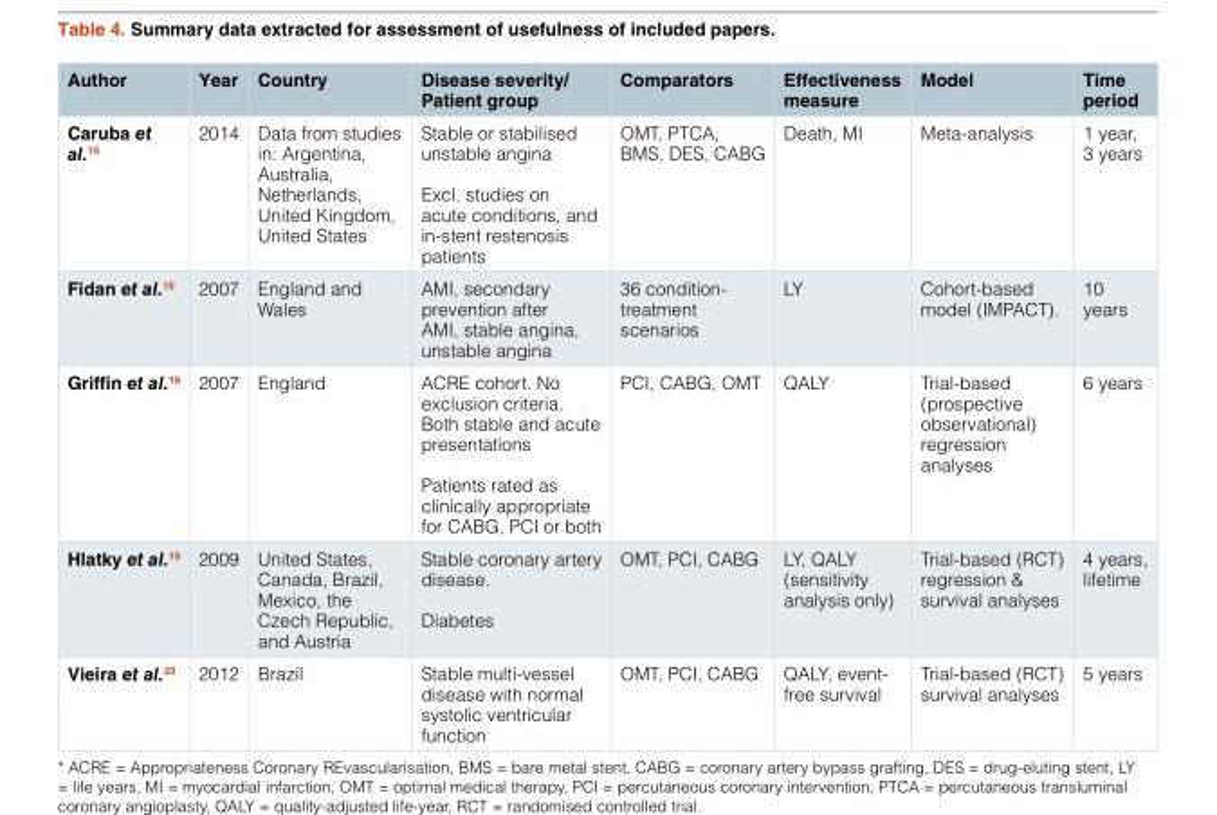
<table><thead><tr><td>Author</td><td>Year</td><td>Country</td><td>Disease severity/ Patient group</td><td>Comparators</td><td>Effectiveness measure</td><td>Model</td><td>Time period</td></tr></thead><tbody><tr><td>Caruba et al.<sup>16</sup></td><td>2014</td><td>Data from studies in: Argentina, Australia, Netherlands, United Kingdom, United States</td><td>Stable or stabilised unstable angina Excl. studies on acute conditions, and in-stent restenosis patients</td><td>OMT, PTCA, BMS, DES, CABG</td><td>Death, MI</td><td>Meta-analysis</td><td>1 year, 3 years</td></tr><tr><td>Fidan et al.<sup>16</sup></td><td>2007</td><td>England and Wales</td><td>AMI, secondary prevention after AMI, stable angina, unstable angina</td><td>36 condition- treatment scenarios</td><td>LY</td><td>Cohort-based model (IMPACT).</td><td>10 years</td></tr><tr><td>Griffin et al.<sup>18</sup></td><td>2007</td><td>England</td><td>ACRE cohort. No exclusion criteria. Both stable and acute presentations Patients rated as clinically appropriate for CABG, PCI or both</td><td>PCI, CABG, OMT</td><td>QALY</td><td>Trial-based (prospective observational) regression analyses</td><td>6 years</td></tr><tr><td>Hlatky et al.<sup>19</sup></td><td>2009</td><td>United States, Canada, Brazil, Mexico, the Czech Republic, and Austria</td><td>Stable coronary artery disease. Diabetes</td><td>OMT, PCI, CABG</td><td>LY, QALY (sensitivity analysis only)</td><td>Trial-based (RCT) regression &amp; survival analyses</td><td>4 years, lifetime</td></tr><tr><td>Vieira et al.<sup>20</sup></td><td>2012</td><td>Brazil</td><td>Stable multi-vessel disease with normal systolic ventricular function</td><td>OMT, PCI, CABG</td><td>QALY, event- free survival</td><td>Trial-based (RCT) survival analyses</td><td>5 years</td></tr></tbody></table>